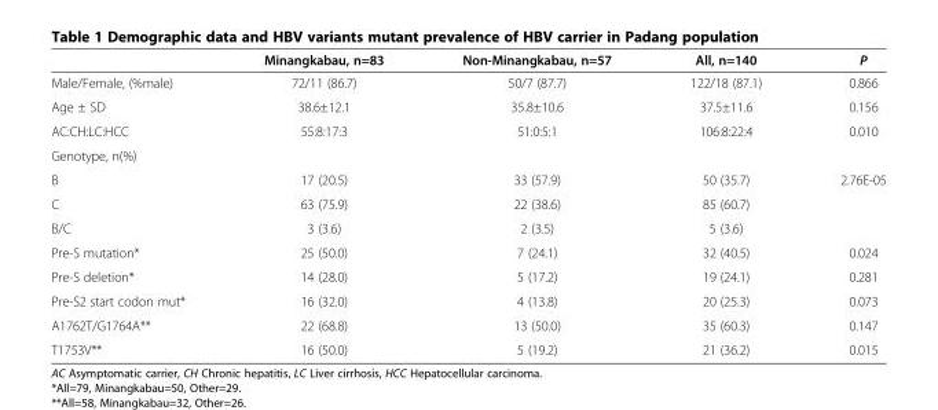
<table><thead><tr><td></td><td>Minangkabau, n=83</td><td>Non-Minangkabau, n=57</td><td>All, n=140</td><td>P</td></tr></thead><tbody><tr><td>Male/Female, (%male)</td><td>72/11 (86.7)</td><td>50/7 (87.7)</td><td>122/18 (87.1)</td><td>0.866</td></tr><tr><td>Age ± SD</td><td>38.6±12.1</td><td>35.8±10.6</td><td>37.5±11.6</td><td>0.156</td></tr><tr><td>AC:CH:LC:HCC</td><td>55:8:17:3</td><td>51:0:5:1</td><td>106:8:22:4</td><td>0.010</td></tr><tr><td colspan="5">Genotype, n(%)</td></tr><tr><td>B</td><td>17 (20.5)</td><td>33 (57.9)</td><td>50 (35.7)</td><td>2.76E-05</td></tr><tr><td>C</td><td>63 (75.9)</td><td>22 (38.6)</td><td>85 (60.7)</td><td></td></tr><tr><td>B/C</td><td>3 (3.6)</td><td>2 (3.5)</td><td>5 (3.6)</td><td></td></tr><tr><td>Pre-S mutation*</td><td>25 (50.0)</td><td>7 (24.1)</td><td>32 (40.5)</td><td>0.024</td></tr><tr><td>Pre-S deletion*</td><td>14 (28.0)</td><td>5 (17.2)</td><td>19 (24.1)</td><td>0.281</td></tr><tr><td>Pre-S2 start codon mut*</td><td>16 (32.0)</td><td>4 (13.8)</td><td>20 (25.3)</td><td>0.073</td></tr><tr><td>A1762T/G1764A**</td><td>22 (68.8)</td><td>13 (50.0)</td><td>35 (60.3)</td><td>0.147</td></tr><tr><td>T1753V**</td><td>16 (50.0)</td><td>5 (19.2)</td><td>21 (36.2)</td><td>0.015</td></tr></tbody></table>